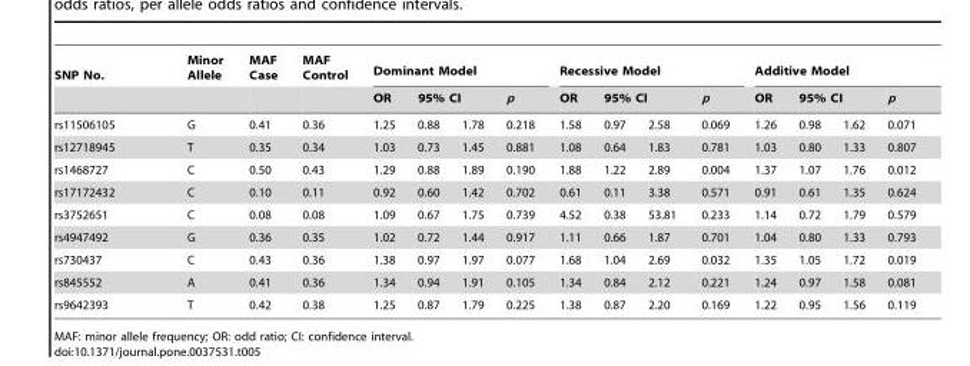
<table><thead><tr><td rowspan="3">SNP No. rs11506105</td><td rowspan="3">Minor Allele G</td><td rowspan="3">MAF Case 0.41</td><td rowspan="3">MAF Control 0.36</td><td colspan="4">Dominant Model</td><td colspan="4">Recessive Model</td><td colspan="4">Additive Model</td></tr><tr><td rowspan="2">OR 1.25</td><td colspan="2">95% CI</td><td rowspan="2">p 0.218</td><td rowspan="2">OR 1.58</td><td colspan="2">95% CI</td><td rowspan="2">p 0.069</td><td rowspan="2">OR 1.26</td><td colspan="2">95% CI</td><td rowspan="2">p 0.071</td></tr><tr><td>0.88</td><td>1.78</td><td>0.97</td><td>2.58</td><td>0.98</td><td>1.62</td></tr></thead><tbody><tr><td>rs12718945</td><td>T</td><td>0.35</td><td>0.34</td><td>1.03</td><td>0.73</td><td>1.45</td><td>0.881</td><td>1.08</td><td>0.64</td><td>1.83</td><td>0.781</td><td>1.03</td><td>0.80</td><td>1.33</td><td>0.807</td></tr><tr><td>rs1468727</td><td>C</td><td>0.50</td><td>0.43</td><td>1.29</td><td>0.88</td><td>1.89</td><td>0.190</td><td>1.88</td><td>1.22</td><td>2.89</td><td>0.004</td><td>1.37</td><td>1.07</td><td>1.76</td><td>0.012</td></tr><tr><td>rs17172432</td><td>C</td><td>0.10</td><td>0.11</td><td>0.92</td><td>0.60</td><td>1.42</td><td>0.702</td><td>0.61</td><td>0.11</td><td>3.38</td><td>0.571</td><td>0.91</td><td>0.61</td><td>1.35</td><td>0.624</td></tr><tr><td>rs3752651</td><td>C</td><td>0.08</td><td>0.08</td><td>1.09</td><td>0.67</td><td>1.75</td><td>0.739</td><td>4.52</td><td>0.38</td><td>53.81</td><td>0.233</td><td>1.14</td><td>0.72</td><td>1.79</td><td>0.579</td></tr><tr><td>rs4947492</td><td>G</td><td>0.36</td><td>0.35</td><td>1.02</td><td>0.72</td><td>1.44</td><td>0.917</td><td>1.11</td><td>0.66</td><td>1.87</td><td>0.701</td><td>1.04</td><td>0.80</td><td>1.33</td><td>0.793</td></tr><tr><td>rs730437</td><td>C</td><td>0.43</td><td>0.36</td><td>1.38</td><td>0.97</td><td>1.97</td><td>0.077</td><td>1.68</td><td>1.04</td><td>2.69</td><td>0.032</td><td>1.35</td><td>1.05</td><td>1.72</td><td>0.019</td></tr><tr><td>rs845552</td><td>A</td><td>0.41</td><td>0.36</td><td>1.34</td><td>0.94</td><td>1.91</td><td>0.105</td><td>1.34</td><td>0.84</td><td>2.12</td><td>0.221</td><td>1.24</td><td>0.97</td><td>1.58</td><td>0.081</td></tr><tr><td>rs9642393</td><td>T</td><td>0.42</td><td>0.38</td><td>1.25</td><td>0.87</td><td>1.79</td><td>0.225</td><td>1.38</td><td>0.87</td><td>2.20</td><td>0.169</td><td>1.22</td><td>0.95</td><td>1.56</td><td>0.119</td></tr></tbody></table>